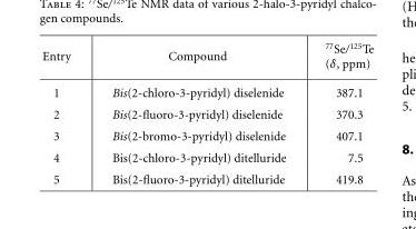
<table><tbody><tr><td rowspan="2">Entry</td><td rowspan="2">Compound</td><td><sup>77</sup>Se/<sup>125</sup>Te</td></tr><tr><td>(δ, ppm)</td></tr><tr><td>1</td><td>Bis(2-chloro-3-pyridyl) diselenide</td><td>387.1</td></tr><tr><td>2</td><td>Bis(2-fluoro-3-pyridyl) diselenide</td><td>370.3</td></tr><tr><td>3</td><td>Bis(2-bromo-3-pyridyl) diselenide</td><td>407.1</td></tr><tr><td>4</td><td>Bis(2-chloro-3-pyridyl) ditelluride</td><td>7.5</td></tr><tr><td>5</td><td>Bis(2-fluoro-3-pyridyl) ditelluride</td><td>419.8</td></tr></tbody></table>